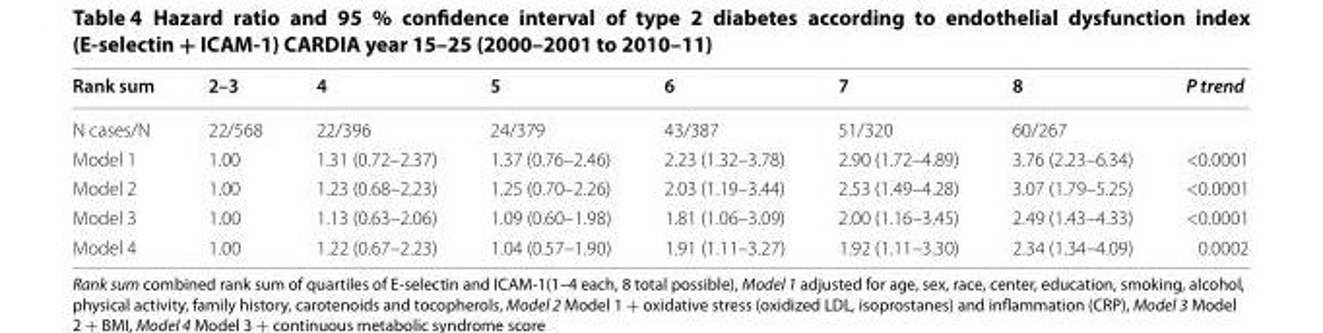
<table><thead><tr><td>Rank sum</td><td>2–3</td><td>4</td><td>5</td><td>6</td><td>7</td><td>8</td><td>P trend</td></tr></thead><tbody><tr><td>N cases/N</td><td>22/568</td><td>22/396</td><td>24/379</td><td>43/387</td><td>51/320</td><td>60/267</td><td></td></tr><tr><td>Model 1</td><td>1.00</td><td>1.31 (0.72–2.37)</td><td>1.37 (0.76–2.46)</td><td>2.23 (1.32–3.78)</td><td>2.90 (1.72–4.89)</td><td>3.76 (2.23–6.34)</td><td>&lt;0.0001</td></tr><tr><td>Model 2</td><td>1.00</td><td>1.23 (0.68–2.23)</td><td>1.25 (0.70–2.26)</td><td>2.03 (1.19–3.44)</td><td>2.53 (1.49–4.28)</td><td>3.07 (1.79–5.25)</td><td>&lt;0.0001</td></tr><tr><td>Model 3</td><td>1.00</td><td>1.13 (0.63–2.06)</td><td>1.09 (0.60–1.98)</td><td>1.81 (1.06–3.09)</td><td>2.00 (1.16–3.45)</td><td>2.49 (1.43–4.33)</td><td>&lt;0.0001</td></tr><tr><td>Model 4</td><td>1.00</td><td>1.22 (0.67–2.23)</td><td>1.04 (0.57–1.90)</td><td>1.91 (1.11–3.27)</td><td>1.92 (1.11–3.30)</td><td>2.34 (1.34–4.09)</td><td>0.0002</td></tr></tbody></table>